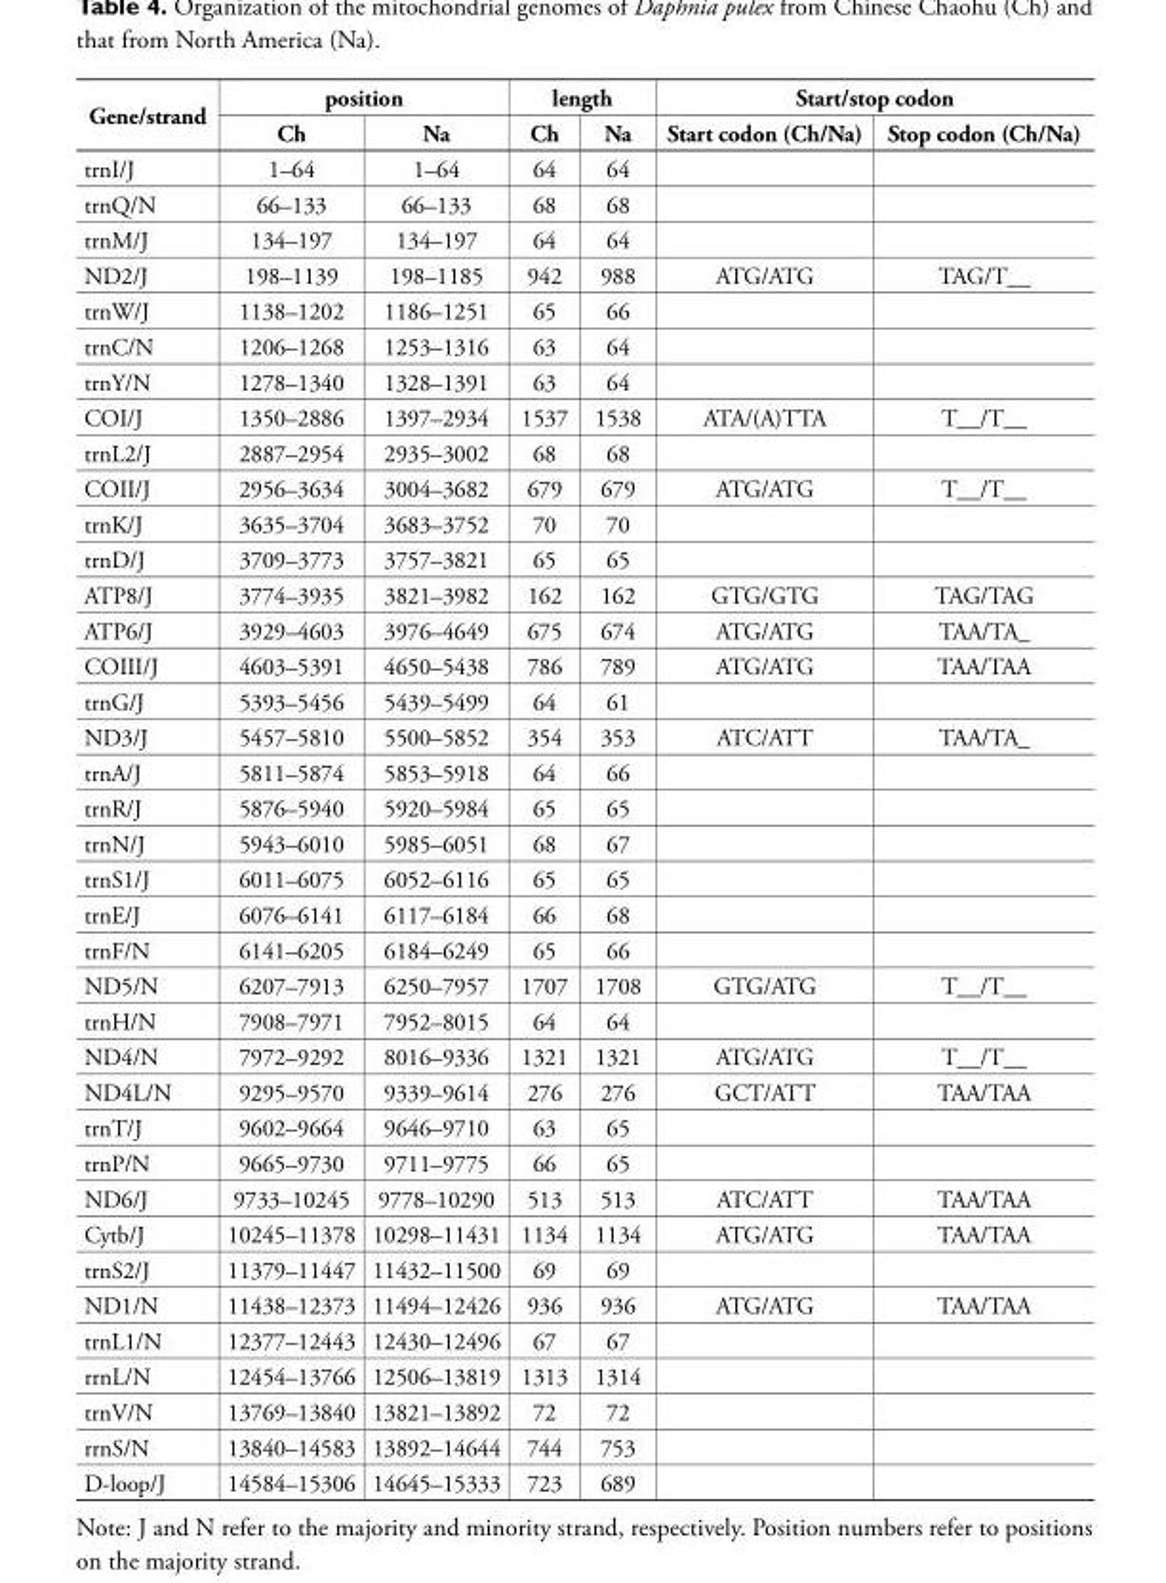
<table><thead><tr><td rowspan="2">Gene/strand</td><td colspan="2">position</td><td colspan="2">length</td><td colspan="2">Start/stop codon</td></tr><tr><td>Ch</td><td>Na</td><td>Ch</td><td>Na</td><td>Start codon (Ch/Na)</td><td>Stop codon (Ch/Na)</td></tr></thead><tbody><tr><td>trnI/J</td><td>1–64</td><td>1–64</td><td>64</td><td>64</td><td></td><td></td></tr><tr><td>trnQ/N</td><td>66–133</td><td>66–133</td><td>68</td><td>68</td><td></td><td></td></tr><tr><td>trnM/J</td><td>134–197</td><td>134–197</td><td>64</td><td>64</td><td></td><td></td></tr><tr><td>ND2/J</td><td>198–1139</td><td>198–1185</td><td>942</td><td>988</td><td>ATG/ATG</td><td>TAG/T__</td></tr><tr><td>trnW/J</td><td>1138–1202</td><td>1186–1251</td><td>65</td><td>66</td><td></td><td></td></tr><tr><td>trnC/N</td><td>1206–1268</td><td>1253–1316</td><td>63</td><td>64</td><td></td><td></td></tr><tr><td>trnY/N</td><td>1278–1340</td><td>1328–1391</td><td>63</td><td>64</td><td></td><td></td></tr><tr><td>COI/J</td><td>1350–2886</td><td>1397–2934</td><td>1537</td><td>1538</td><td>ATA/(A)TTA</td><td>T__/T__</td></tr><tr><td>trnL2/J</td><td>2887–2954</td><td>2935–3002</td><td>68</td><td>68</td><td></td><td></td></tr><tr><td>COII/J</td><td>2956–3634</td><td>3004–3682</td><td>679</td><td>679</td><td>ATG/ATG</td><td>T__/T__</td></tr><tr><td>trnK/J</td><td>3635–3704</td><td>3683–3752</td><td>70</td><td>70</td><td></td><td></td></tr><tr><td>trnD/J</td><td>3709–3773</td><td>3757–3821</td><td>65</td><td>65</td><td></td><td></td></tr><tr><td>ATP8/J</td><td>3774–3935</td><td>3821–3982</td><td>162</td><td>162</td><td>GTG/GTG</td><td>TAG/TAG</td></tr><tr><td>ATP6/J</td><td>3929–4603</td><td>3976–4649</td><td>675</td><td>674</td><td>ATG/ATG</td><td>TAA/TA_</td></tr><tr><td>COIII/J</td><td>4603–5391</td><td>4650–5438</td><td>786</td><td>789</td><td>ATG/ATG</td><td>TAA/TAA</td></tr><tr><td>trnG/J</td><td>5393–5456</td><td>5439–5499</td><td>64</td><td>61</td><td></td><td></td></tr><tr><td>ND3/J</td><td>5457–5810</td><td>5500–5852</td><td>354</td><td>353</td><td>ATC/ATT</td><td>TAA/TA_</td></tr><tr><td>trnA/J</td><td>5811–5874</td><td>5853–5918</td><td>64</td><td>66</td><td></td><td></td></tr><tr><td>trnR/J</td><td>5876–5940</td><td>5920–5984</td><td>65</td><td>65</td><td></td><td></td></tr><tr><td>trnN/J</td><td>5943–6010</td><td>5985–6051</td><td>68</td><td>67</td><td></td><td></td></tr><tr><td>trnS1/J</td><td>6011–6075</td><td>6052–6116</td><td>65</td><td>65</td><td></td><td></td></tr><tr><td>trnE/J</td><td>6076–6141</td><td>6117–6184</td><td>66</td><td>68</td><td></td><td></td></tr><tr><td>trnF/N</td><td>6141–6205</td><td>6184–6249</td><td>65</td><td>66</td><td></td><td></td></tr><tr><td>ND5/N</td><td>6207–7913</td><td>6250–7957</td><td>1707</td><td>1708</td><td>GTG/ATG</td><td>T__/T__</td></tr><tr><td>trnH/N</td><td>7908–7971</td><td>7952–8015</td><td>64</td><td>64</td><td></td><td></td></tr><tr><td>ND4/N</td><td>7972–9292</td><td>8016–9336</td><td>1321</td><td>1321</td><td>ATG/ATG</td><td>T__/T__</td></tr><tr><td>ND4L/N</td><td>9295–9570</td><td>9339–9614</td><td>276</td><td>276</td><td>GCT/ATT</td><td>TAA/TAA</td></tr><tr><td>trnT/J</td><td>9602–9664</td><td>9646–9710</td><td>63</td><td>65</td><td></td><td></td></tr><tr><td>trnP/N</td><td>9665–9730</td><td>9711–9775</td><td>66</td><td>65</td><td></td><td></td></tr><tr><td>ND6/J</td><td>9733–10245</td><td>9778–10290</td><td>513</td><td>513</td><td>ATC/ATT</td><td>TAA/TAA</td></tr><tr><td>Cytb/J</td><td>10245–11378</td><td>10298–11431</td><td>1134</td><td>1134</td><td>ATG/ATG</td><td>TAA/TAA</td></tr><tr><td>trnS2/J</td><td>11379–11447</td><td>11432–11500</td><td>69</td><td>69</td><td></td><td></td></tr><tr><td>ND1/N</td><td>11438–12373</td><td>11494–12426</td><td>936</td><td>936</td><td>ATG/ATG</td><td>TAA/TAA</td></tr><tr><td>trnL1/N</td><td>12377–12443</td><td>12430–12496</td><td>67</td><td>67</td><td></td><td></td></tr><tr><td>rrnL/N</td><td>12454–13766</td><td>12506–13819</td><td>1313</td><td>1314</td><td></td><td></td></tr><tr><td>trnV/N</td><td>13769–13840</td><td>13821–13892</td><td>72</td><td>72</td><td></td><td></td></tr><tr><td>rrnS/N</td><td>13840–14583</td><td>13892–14644</td><td>744</td><td>753</td><td></td><td></td></tr><tr><td>D-loop/J</td><td>14584–15306</td><td>14645–15333</td><td>723</td><td>689</td><td></td><td></td></tr></tbody></table>